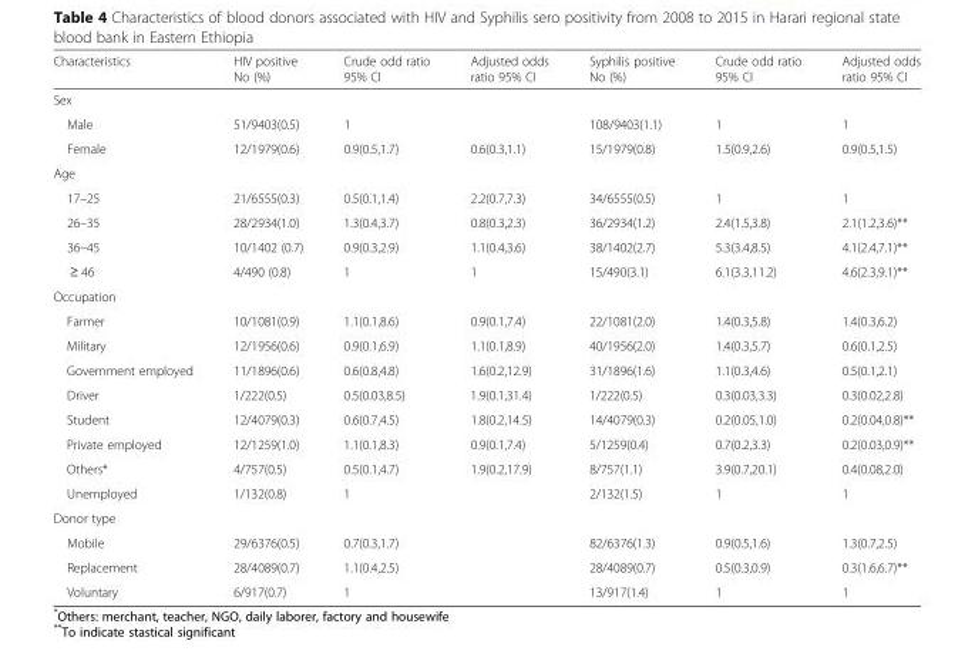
<table><thead><tr><td>Characteristics</td><td>HIV positive No (%)</td><td>Crude odd ratio 95% CI</td><td>Adjusted odds ratio 95% CI</td><td>Syphilis positive No (%)</td><td>Crude odd ratio 95% CI</td><td>Adjusted odds ratio 95% CI</td></tr></thead><tbody><tr><td colspan="7">Sex</td></tr><tr><td>Male</td><td>51/9403(0.5)</td><td>1</td><td></td><td>108/9403(1.1)</td><td>1</td><td>1</td></tr><tr><td>Female</td><td>12/1979(0.6)</td><td>0.9(0.5,1.7)</td><td>0.6(0.3,1.1)</td><td>15/1979(0.8)</td><td>1.5(0.9,2.6)</td><td>0.9(0.5,1.5)</td></tr><tr><td colspan="7">Age</td></tr><tr><td>17–25</td><td>21/6555(0.3)</td><td>0.5(0.1,1.4)</td><td>2.2(0.7,7.3)</td><td>34/6555(0.5)</td><td>1</td><td>1</td></tr><tr><td>26–35</td><td>28/2934(1.0)</td><td>1.3(0.4,3.7)</td><td>0.8(0.3,2.3)</td><td>36/2934(1.2)</td><td>2.4(1.5,3.8)</td><td>2.1(1.2,3.6)**</td></tr><tr><td>36–45</td><td>10/1402 (0.7)</td><td>0.9(0.3,2.9)</td><td>1.1(0.4,3.6)</td><td>38/1402(2.7)</td><td>5.3(3.4,8.5)</td><td>4.1(2.4,7.1)**</td></tr><tr><td>≥ 46</td><td>4/490 (0.8)</td><td>1</td><td>1</td><td>15/490(3.1)</td><td>6.1(3.3,11.2)</td><td>4.6(2.3,9.1)**</td></tr><tr><td colspan="7">Occupation</td></tr><tr><td>Farmer</td><td>10/1081(0.9)</td><td>1.1(0.1,8.6)</td><td>0.9(0.1,7.4)</td><td>22/1081(2.0)</td><td>1.4(0.3,5.8)</td><td>1.4(0.3,6.2)</td></tr><tr><td>Military</td><td>12/1956(0.6)</td><td>0.9(0.1,6.9)</td><td>1.1(0.1,8.9)</td><td>40/1956(2.0)</td><td>1.4(0.3,5.7)</td><td>0.6(0.1,2.5)</td></tr><tr><td>Government employed</td><td>11/1896(0.6)</td><td>0.6(0.8,4.8)</td><td>1.6(0.2,12.9)</td><td>31/1896(1.6)</td><td>1.1(0.3,4.6)</td><td>0.5(0.1,2.1)</td></tr><tr><td>Driver</td><td>1/222(0.5)</td><td>0.5(0.03,8.5)</td><td>1.9(0.1,31.4)</td><td>1/222(0.5)</td><td>0.3(0.03,3.3)</td><td>0.3(0.02,2.8)</td></tr><tr><td>Student</td><td>12/4079(0.3)</td><td>0.6(0.7,4.5)</td><td>1.8(0.2,14.5)</td><td>14/4079(0.3)</td><td>0.2(0.05,1.0)</td><td>0.2(0.04,0.8)**</td></tr><tr><td>Private employed</td><td>12/1259(1.0)</td><td>1.1(0.1,8.3)</td><td>0.9(0.1,7.4)</td><td>5/1259(0.4)</td><td>0.7(0.2,3.3)</td><td>0.2(0.03,0.9)**</td></tr><tr><td>Others*</td><td>4/757(0.5)</td><td>0.5(0.1,4.7)</td><td>1.9(0.2,17.9)</td><td>8/757(1.1)</td><td>3.9(0.7,20.1)</td><td>0.4(0.08,2.0)</td></tr><tr><td>Unemployed</td><td>1/132(0.8)</td><td>1</td><td></td><td>2/132(1.5)</td><td>1</td><td>1</td></tr><tr><td colspan="7">Donor type</td></tr><tr><td>Mobile</td><td>29/6376(0.5)</td><td>0.7(0.3,1.7)</td><td></td><td>82/6376(1.3)</td><td>0.9(0.5,1.6)</td><td>1.3(0.7,2.5)</td></tr><tr><td>Replacement</td><td>28/4089(0.7)</td><td>1.1(0.4,2.5)</td><td></td><td>28/4089(0.7)</td><td>0.5(0.3,0.9)</td><td>0.3(1.6,6.7)**</td></tr><tr><td>Voluntary</td><td>6/917(0.7)</td><td>1</td><td></td><td>13/917(1.4)</td><td>1</td><td>1</td></tr></tbody></table>